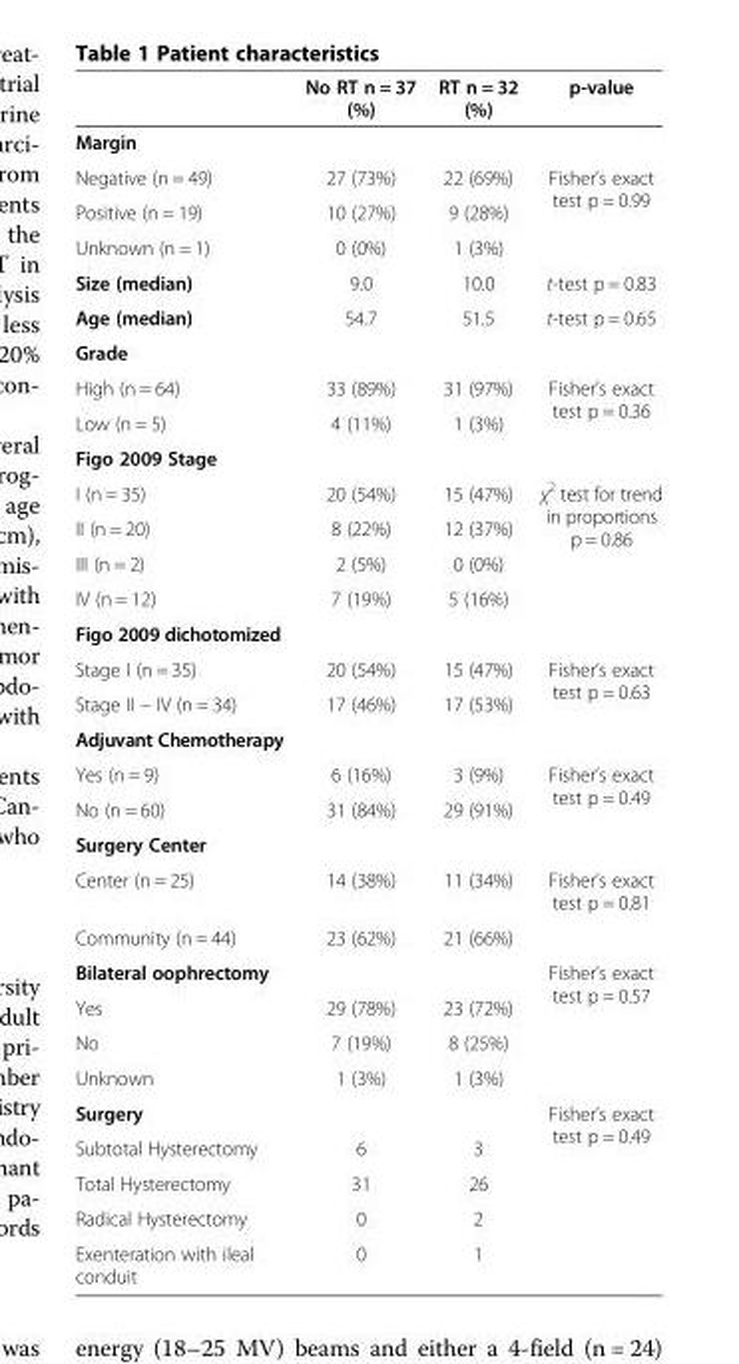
<table><thead><tr><td></td><td>No RT n = 37 (%)</td><td>RT n = 32 (%)</td><td>p-value</td></tr></thead><tbody><tr><td colspan="4">Margin</td></tr><tr><td>Negative (n = 49)</td><td>27 (73%)</td><td>22 (69%)</td><td rowspan="2">Fisher’s exact test p = 0.99</td></tr><tr><td>Positive (n = 19)</td><td>10 (27%)</td><td>9 (28%)</td></tr><tr><td>Unknown (n = 1)</td><td>0 (0%)</td><td>1 (3%)</td><td></td></tr><tr><td>Size (median)</td><td>9.0</td><td>10.0</td><td>t-test p = 0.83</td></tr><tr><td>Age (median)</td><td>54.7</td><td>51.5</td><td>t-test p = 0.65</td></tr><tr><td colspan="4">Grade</td></tr><tr><td>High (n = 64)</td><td>33 (89%)</td><td>31 (97%)</td><td rowspan="2">Fisher’s exact test p = 0.36</td></tr><tr><td>Low (n = 5)</td><td>4 (11%)</td><td>1 (3%)</td></tr><tr><td colspan="4">Figo 2009 Stage</td></tr><tr><td>I (n = 35)</td><td>20 (54%)</td><td>15 (47%)</td><td rowspan="4">χ<sup>2</sup> test for trend in proportions p = 0.86</td></tr><tr><td>II (n = 20)</td><td>8 (22%)</td><td>12 (37%)</td></tr><tr><td>III (n = 2)</td><td>2 (5%)</td><td>0 (0%)</td></tr><tr><td>IV (n = 12)</td><td>7 (19%)</td><td>5 (16%)</td></tr><tr><td colspan="4">Figo 2009 dichotomized</td></tr><tr><td>Stage I (n = 35)</td><td>20 (54%)</td><td>15 (47%)</td><td rowspan="2">Fisher’s exact test p = 0.63</td></tr><tr><td>Stage II – IV (n = 34)</td><td>17 (46%)</td><td>17 (53%)</td></tr><tr><td colspan="4">Adjuvant Chemotherapy</td></tr><tr><td>Yes (n = 9)</td><td>6 (16%)</td><td>3 (9%)</td><td rowspan="2">Fisher’s exact test p = 0.49</td></tr><tr><td>No (n = 60)</td><td>31 (84%)</td><td>29 (91%)</td></tr><tr><td colspan="4">Surgery Center</td></tr><tr><td>Center (n = 25)</td><td>14 (38%)</td><td>11 (34%)</td><td>Fisher’s exact test p = 0.81</td></tr><tr><td>Community (n = 44)</td><td>23 (62%)</td><td>21 (66%)</td><td></td></tr><tr><td colspan="3">Bilateral oophrectomy</td><td rowspan="4">Fisher’s exact test p = 0.57</td></tr><tr><td>Yes</td><td>29 (78%)</td><td>23 (72%)</td></tr><tr><td>No</td><td>7 (19%)</td><td>8 (25%)</td></tr><tr><td>Unknown</td><td>1 (3%)</td><td>1 (3%)</td></tr><tr><td colspan="3">Surgery</td><td rowspan="5">Fisher’s exact test p = 0.49</td></tr><tr><td>Subtotal Hysterectomy</td><td>6</td><td>3</td></tr><tr><td>Total Hysterectomy</td><td>31</td><td>26</td></tr><tr><td>Radical Hysterectomy</td><td>0</td><td>2</td></tr><tr><td>Exenteration with ileal conduit</td><td>0</td><td>1</td></tr></tbody></table>